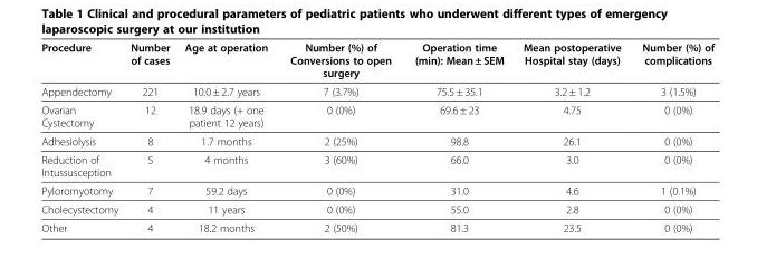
<table><thead><tr><td>Procedure</td><td>Number of cases</td><td>Age at operation</td><td>Number (%) of Conversions to open surgery</td><td>Operation time (min): Mean ± SEM</td><td>Mean postoperative Hospital stay (days)</td><td>Number (%) of complications</td></tr></thead><tbody><tr><td>Appendectomy</td><td>221</td><td>10.0 ± 2.7 years</td><td>7 (3.7%)</td><td>75.5 ± 35.1</td><td>3.2 ± 1.2</td><td>3 (1.5%)</td></tr><tr><td>Ovarian Cystectomy</td><td>12</td><td>18.9 days (+ one patient 12 years)</td><td>0 (0%)</td><td>69.6 ± 23</td><td>4.75</td><td>0 (0%)</td></tr><tr><td>Adhesiolysis</td><td>8</td><td>1.7 months</td><td>2 (25%)</td><td>98.8</td><td>26.1</td><td>0 (0%)</td></tr><tr><td>Reduction of Intussusception</td><td>5</td><td>4 months</td><td>3 (60%)</td><td>66.0</td><td>3.0</td><td>0 (0%)</td></tr><tr><td>Pyloromyotomy</td><td>7</td><td>59.2 days</td><td>0 (0%)</td><td>31.0</td><td>4.6</td><td>1 (0.1%)</td></tr><tr><td>Cholecystectomy</td><td>4</td><td>11 years</td><td>0 (0%)</td><td>55.0</td><td>2.8</td><td>0 (0%)</td></tr><tr><td>Other</td><td>4</td><td>18.2 months</td><td>2 (50%)</td><td>81.3</td><td>23.5</td><td>0 (0%)</td></tr></tbody></table>